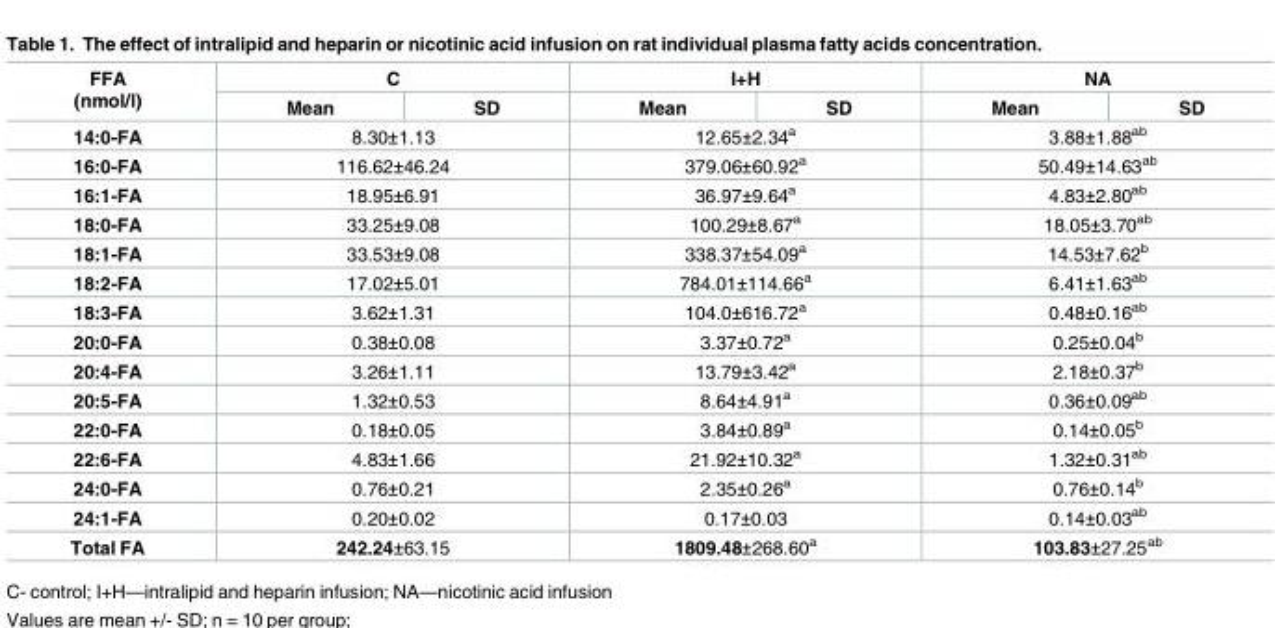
<table><thead><tr><td rowspan="2">FFA (nmol/l)</td><td colspan="2">C</td><td colspan="2">I+H</td><td colspan="2">NA</td></tr><tr><td>Mean</td><td>SD</td><td>Mean</td><td>SD</td><td>Mean</td><td>SD</td></tr></thead><tbody><tr><td>14:0-FA</td><td colspan="2">8.30±1.13</td><td colspan="2">12.65±2.34<sup>a</sup></td><td colspan="2">3.88±1.88<sup>ab</sup></td></tr><tr><td>16:0-FA</td><td colspan="2">116.62±46.24</td><td colspan="2">379.06±60.92<sup>a</sup></td><td colspan="2">50.49±14.63<sup>ab</sup></td></tr><tr><td>16:1-FA</td><td colspan="2">18.95±6.91</td><td colspan="2">36.97±9.64<sup>a</sup></td><td colspan="2">4.83±2.80<sup>ab</sup></td></tr><tr><td>18:0-FA</td><td colspan="2">33.25±9.08</td><td colspan="2">100.29±8.67<sup>a</sup></td><td colspan="2">18.05±3.70<sup>ab</sup></td></tr><tr><td>18:1-FA</td><td colspan="2">33.53±9.08</td><td colspan="2">338.37±54.09<sup>a</sup></td><td colspan="2">14.53±7.62<sup>b</sup></td></tr><tr><td>18:2-FA</td><td colspan="2">17.02±5.01</td><td colspan="2">784.01±114.66<sup>a</sup></td><td colspan="2">6.41±1.63<sup>ab</sup></td></tr><tr><td>18:3-FA</td><td colspan="2">3.62±1.31</td><td colspan="2">104.0±616.72<sup>a</sup></td><td colspan="2">0.48±0.16<sup>ab</sup></td></tr><tr><td>20:0-FA</td><td colspan="2">0.38±0.08</td><td colspan="2">3.37±0.72<sup>a</sup></td><td colspan="2">0.25±0.04<sup>b</sup></td></tr><tr><td>20:4-FA</td><td colspan="2">3.26±1.11</td><td colspan="2">13.79±3.42<sup>a</sup></td><td colspan="2">2.18±0.37<sup>b</sup></td></tr><tr><td>20:5-FA</td><td colspan="2">1.32±0.53</td><td colspan="2">8.64±4.91<sup>a</sup></td><td colspan="2">0.36±0.09<sup>ab</sup></td></tr><tr><td>22:0-FA</td><td colspan="2">0.18±0.05</td><td colspan="2">3.84±0.89<sup>a</sup></td><td colspan="2">0.14±0.05<sup>b</sup></td></tr><tr><td>22:6-FA</td><td colspan="2">4.83±1.66</td><td colspan="2">21.92±10.32<sup>a</sup></td><td colspan="2">1.32±0.31<sup>ab</sup></td></tr><tr><td>24:0-FA</td><td colspan="2">0.76±0.21</td><td colspan="2">2.35±0.26<sup>a</sup></td><td colspan="2">0.76±0.14<sup>b</sup></td></tr><tr><td>24:1-FA</td><td colspan="2">0.20±0.02</td><td colspan="2">0.17±0.03</td><td colspan="2">0.14±0.03<sup>ab</sup></td></tr><tr><td>Total FA</td><td colspan="2">242.24±63.15</td><td colspan="2">1809.48±268.60<sup>a</sup></td><td colspan="2">103.83±27.25<sup>ab</sup></td></tr></tbody></table>